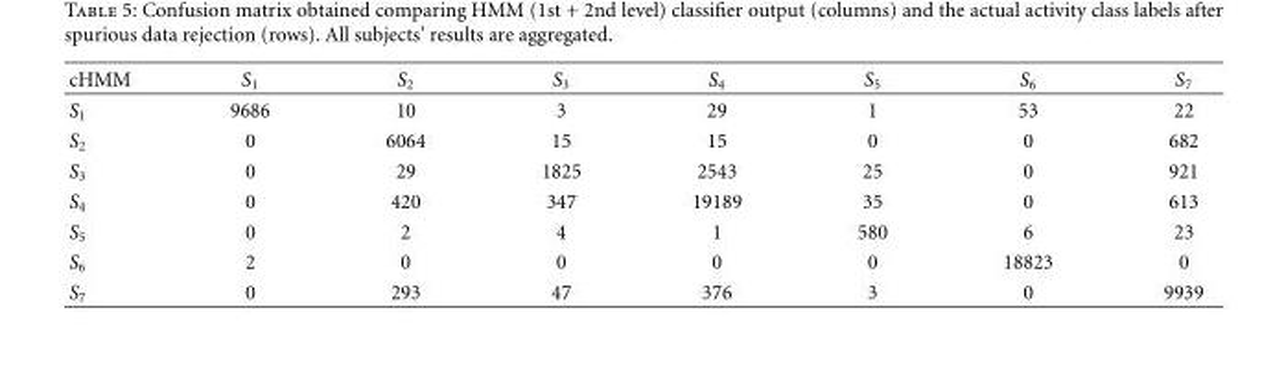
<table><thead><tr><td>cHMM</td><td>S<sub>1</sub></td><td>S<sub>2</sub></td><td>S<sub>3</sub></td><td>S<sub>4</sub></td><td>S<sub>5</sub></td><td>S<sub>6</sub></td><td>S<sub>7</sub></td></tr></thead><tbody><tr><td>S<sub>1</sub></td><td>9686</td><td>10</td><td>3</td><td>29</td><td>1</td><td>53</td><td>22</td></tr><tr><td>S<sub>2</sub></td><td>0</td><td>6064</td><td>15</td><td>15</td><td>0</td><td>0</td><td>682</td></tr><tr><td>S<sub>3</sub></td><td>0</td><td>29</td><td>1825</td><td>2543</td><td>25</td><td>0</td><td>921</td></tr><tr><td>S<sub>4</sub></td><td>0</td><td>420</td><td>347</td><td>19189</td><td>35</td><td>0</td><td>613</td></tr><tr><td>S<sub>5</sub></td><td>0</td><td>2</td><td>4</td><td>1</td><td>580</td><td>6</td><td>23</td></tr><tr><td>S<sub>6</sub></td><td>2</td><td>0</td><td>0</td><td>0</td><td>0</td><td>18823</td><td>0</td></tr><tr><td>S<sub>7</sub></td><td>0</td><td>293</td><td>47</td><td>376</td><td>3</td><td>0</td><td>9939</td></tr></tbody></table>